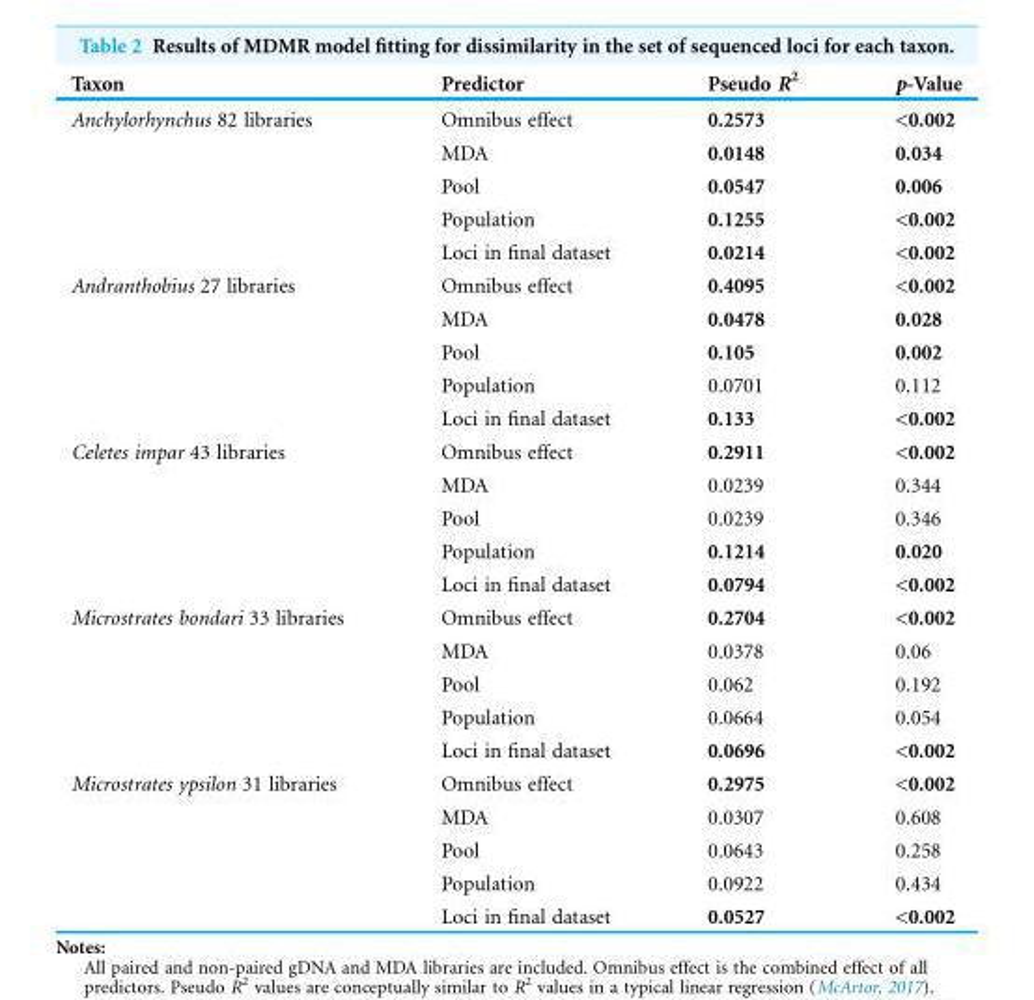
<table><thead><tr><td>Taxon</td><td>Predictor</td><td>Pseudo R<sup>2</sup></td><td>p-Value</td></tr></thead><tbody><tr><td rowspan="5">Anchylorhynchus 82 libraries</td><td>Omnibus effect</td><td>0.2573</td><td>&lt;0.002</td></tr><tr><td>MDA</td><td>0.0148</td><td>0.034</td></tr><tr><td>Pool</td><td>0.0547</td><td>0.006</td></tr><tr><td>Population</td><td>0.1255</td><td>&lt;0.002</td></tr><tr><td>Loci in final dataset</td><td>0.0214</td><td>&lt;0.002</td></tr><tr><td rowspan="5">Andranthobius 27 libraries</td><td>Omnibus effect</td><td>0.4095</td><td>&lt;0.002</td></tr><tr><td>MDA</td><td>0.0478</td><td>0.028</td></tr><tr><td>Pool</td><td>0.105</td><td>0.002</td></tr><tr><td>Population</td><td>0.0701</td><td>0.112</td></tr><tr><td>Loci in final dataset</td><td>0.133</td><td>&lt;0.002</td></tr><tr><td rowspan="5">Celetes impar 43 libraries</td><td>Omnibus effect</td><td>0.2911</td><td>&lt;0.002</td></tr><tr><td>MDA</td><td>0.0239</td><td>0.344</td></tr><tr><td>Pool</td><td>0.0239</td><td>0.346</td></tr><tr><td>Population</td><td>0.1214</td><td>0.020</td></tr><tr><td>Loci in final dataset</td><td>0.0794</td><td>&lt;0.002</td></tr><tr><td rowspan="5">Microstrates bondari 33 libraries</td><td>Omnibus effect</td><td>0.2704</td><td>&lt;0.002</td></tr><tr><td>MDA</td><td>0.0378</td><td>0.06</td></tr><tr><td>Pool</td><td>0.062</td><td>0.192</td></tr><tr><td>Population</td><td>0.0664</td><td>0.054</td></tr><tr><td>Loci in final dataset</td><td>0.0696</td><td>&lt;0.002</td></tr><tr><td rowspan="5">Microstrates ypsilon 31 libraries</td><td>Omnibus effect</td><td>0.2975</td><td>&lt;0.002</td></tr><tr><td>MDA</td><td>0.0307</td><td>0.608</td></tr><tr><td>Pool</td><td>0.0643</td><td>0.258</td></tr><tr><td>Population</td><td>0.0922</td><td>0.434</td></tr><tr><td>Loci in final dataset</td><td>0.0527</td><td>&lt;0.002</td></tr></tbody></table>